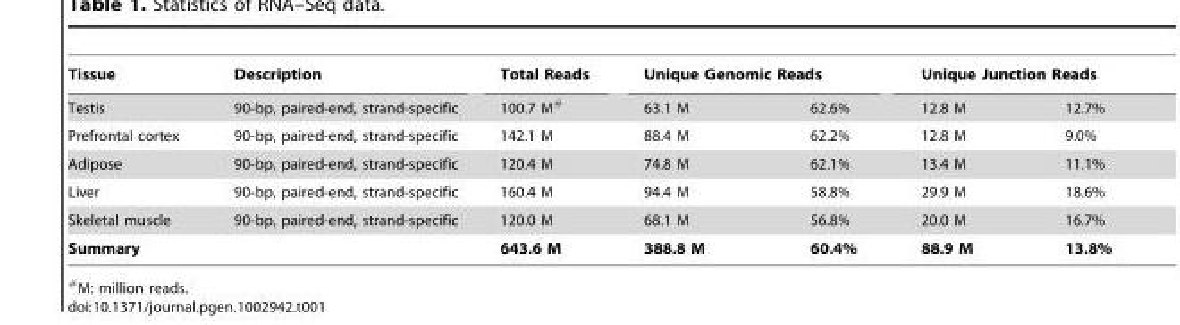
<table><thead><tr><td rowspan="2">Tissue Testis</td><td rowspan="2">Description 90-bp, paired-end, strand-specific</td><td rowspan="2">Total Reads 100.7 M#</td><td colspan="2">Unique Genomic Reads</td><td colspan="2">Unique Junction Reads</td></tr><tr><td>63.1 M</td><td>62.6%</td><td>12.8 M</td><td>12.7%</td></tr></thead><tbody><tr><td>Prefrontal cortex</td><td>90-bp, paired-end, strand-specific</td><td>142.1 M</td><td>88.4 M</td><td>62.2%</td><td>12.8 M</td><td>9.0%</td></tr><tr><td>Adipose</td><td>90-bp, paired-end, strand-specific</td><td>120.4 M</td><td>74.8 M</td><td>62.1%</td><td>13.4 M</td><td>11.1%</td></tr><tr><td>Liver</td><td>90-bp, paired-end, strand-specific</td><td>160.4 M</td><td>94.4 M</td><td>58.8%</td><td>29.9 M</td><td>18.6%</td></tr><tr><td>Skeletal muscle</td><td>90-bp, paired-end, strand-specific</td><td>120.0 M</td><td>68.1 M</td><td>56.8%</td><td>20.0 M</td><td>16.7%</td></tr><tr><td colspan="2">Summary</td><td>643.6 M</td><td>388.8 M</td><td>60.4%</td><td>88.9 M</td><td>13.8%</td></tr></tbody></table>